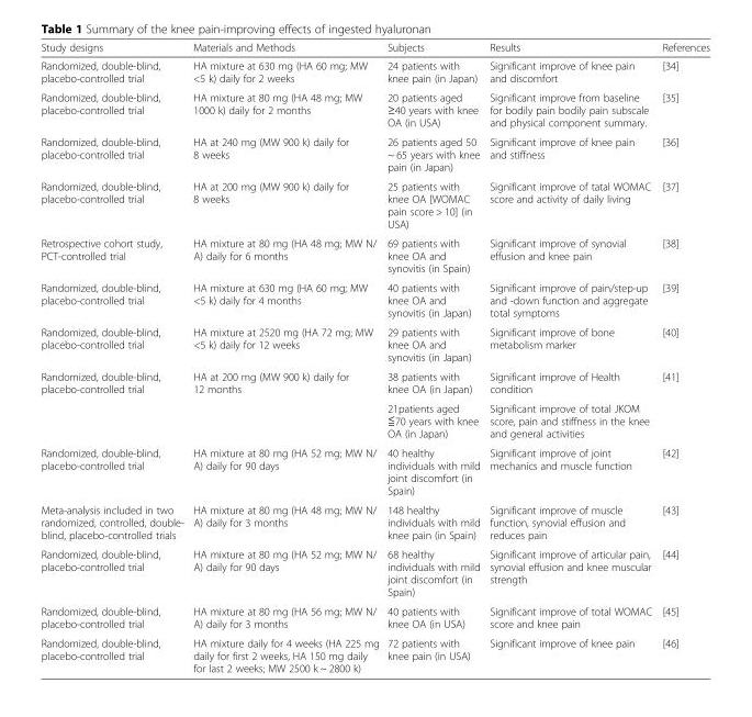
<table><thead><tr><td>Study designs</td><td>Materials and Methods</td><td>Subjects</td><td>Results</td><td>References</td></tr></thead><tbody><tr><td>Randomized, double-blind, placebo-controlled trial</td><td>HA mixture at 630 mg (HA 60 mg; MW &lt;5 k) daily for 2 weeks</td><td>24 patients with knee pain (in Japan)</td><td>Significant improve of knee pain and discomfort</td><td>[34]</td></tr><tr><td>Randomized, double-blind, placebo-controlled trial</td><td>HA mixture at 80 mg (HA 48 mg; MW 1000 k) daily for 2 months</td><td>20 patients aged ≥40 years with knee OA (in USA)</td><td>Significant improve from baseline for bodily pain bodily pain subscale and physical component summary.</td><td>[35]</td></tr><tr><td>Randomized, double-blind, placebo-controlled trial</td><td>HA at 240 mg (MW 900 k) daily for 8 weeks</td><td>26 patients aged 50 ~ 65 years with knee pain (in Japan)</td><td>Significant improve of knee pain and stiffness</td><td>[36]</td></tr><tr><td>Randomized, double-blind, placebo-controlled trial</td><td>HA at 200 mg (MW 900 k) daily for 8 weeks</td><td>25 patients with knee OA [WOMAC pain score &gt; 10] (in USA)</td><td>Significant improve of tatal WOMAC score and activity of daily living</td><td>[37]</td></tr><tr><td>Retrospective cohort study, PCT-controlled trial</td><td>HA mixture at 80 mg (HA 48 mg; MW N/ A) daily for 6 months</td><td>69 patients with knee OA and synovitis (in Spain)</td><td>Significant improve of synovial effusion and knee pain</td><td>[38]</td></tr><tr><td>Randomized, double-blind, placebo-controlled trial</td><td>HA mixture at 630 mg (HA 60 mg; MW &lt;5 k) daily for 4 months</td><td>40 patients with knee OA and synovitis (in Japan)</td><td>Significant improve of pain/step-up and -down function and aggregate total symptoms</td><td>[39]</td></tr><tr><td>Randomized, double-blind, placebo-controlled trial</td><td>HA mixture at 2520 mg (HA 72 mg; MW &lt;5 k) daily for 12 weeks</td><td>29 patients with knee OA and synovitis (in Japan)</td><td>Significant improve of bone metabolism marker</td><td>[40]</td></tr><tr><td rowspan="2">Randomized, double-blind, placebo-controlled trial</td><td rowspan="2">HA at 200 mg (MW 900 k) daily for 12 months</td><td>38 patients with knee OA (in Japan)</td><td>Significant improve of Health condition</td><td rowspan="2">[41]</td></tr><tr><td>21patients aged ≦70 years with knee OA (in Japan)</td><td>Significant improve of total JKOM score, pain and stiffness in the knee and general activities</td></tr><tr><td>Randomized, double-blind, placebo-controlled trial</td><td>HA mixture at 80 mg (HA 52 mg; MW N/ A) daily for 90 days</td><td>40 healthy individuals with mild joint discomfort (in Spain)</td><td>Significant improve of joint mechanics and muscle function</td><td>[42]</td></tr><tr><td>Meta-analysis included in two randomized, controlled, double- blind, placebo-controlled trials</td><td>HA mixture at 80 mg (HA 48 mg; MW N/ A) daily for 3 months</td><td>148 healthy individuals with mild knee pain (in Spain)</td><td>Significant improve of muscle function, synovial effusion and reduces pain</td><td>[43]</td></tr><tr><td>Randomized, double-blind, placebo-controlled trial</td><td>HA mixture at 80 mg (HA 52 mg; MW N/ A) daily for 90 days</td><td>68 healthy individuals with mild joint discomfort (in Spain)</td><td>Significant improve of articular pain, synovial effusion and knee muscular strength</td><td>[44]</td></tr><tr><td>Randomized, double-blind, placebo-controlled trial</td><td>HA mixture at 80 mg (HA 56 mg; MW N/ A) daily for 3 months</td><td>40 patients with knee OA (in USA)</td><td>Significant improve of total WOMAC score and knee pain</td><td>[45]</td></tr><tr><td>Randomized, double-blind, placebo-controlled trial</td><td>HA mixture daily for 4 weeks (HA 225 mg daily for first 2 weeks, HA 150 mg daily for last 2 weeks; MW 2500 k ~ 2800 k)</td><td>72 patients with knee pain (in USA)</td><td>Significant improve of knee pain</td><td>[46]</td></tr></tbody></table>